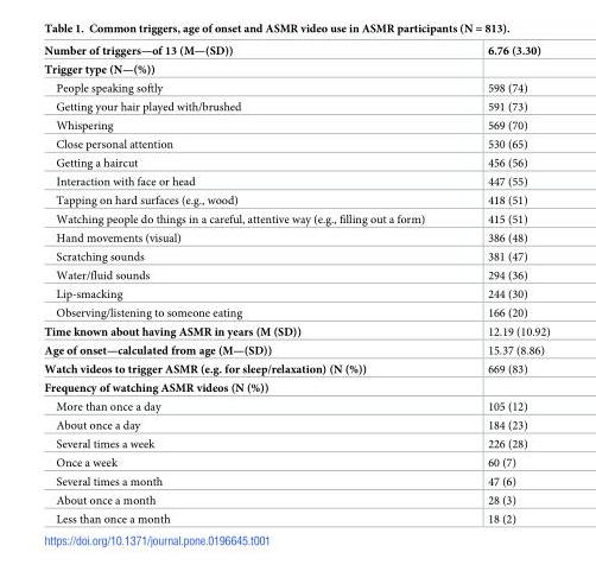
<table><tbody><tr><td>Number of triggers—of 13 (M—(SD))</td><td>6.76 (3.30)</td></tr><tr><td colspan="2">Trigger type (N—(%))</td></tr><tr><td>People speaking softly</td><td>598 (74)</td></tr><tr><td>Getting your hair played with/brushed</td><td>591 (73)</td></tr><tr><td>Whispering</td><td>569 (70)</td></tr><tr><td>Close personal attention</td><td>530 (65)</td></tr><tr><td>Getting a haircut</td><td>456 (56)</td></tr><tr><td>Interaction with face or head</td><td>447 (55)</td></tr><tr><td>Tapping on hard surfaces (e.g., wood)</td><td>418 (51)</td></tr><tr><td>Watching people do things in a careful, attentive way (e.g., filling out a form)</td><td>415 (51)</td></tr><tr><td>Hand movements (visual)</td><td>386 (48)</td></tr><tr><td>Scratching sounds</td><td>381 (47)</td></tr><tr><td>Water/fluid sounds</td><td>294 (36)</td></tr><tr><td>Lip-smacking</td><td>244 (30)</td></tr><tr><td>Observing/listening to someone eating</td><td>166 (20)</td></tr><tr><td>Time known about having ASMR in years (M (SD))</td><td>12.19 (10.92)</td></tr><tr><td>Age of onset—calculated from age (M—(SD))</td><td>15.37 (8.86)</td></tr><tr><td>Watch videos to trigger ASMR (e.g. for sleep/relaxation) (N (%))</td><td>669 (83)</td></tr><tr><td colspan="2">Frequency of watching ASMR videos (N (%))</td></tr><tr><td>More than once a day</td><td>105 (12)</td></tr><tr><td>About once a day</td><td>184 (23)</td></tr><tr><td>Several times a week</td><td>226 (28)</td></tr><tr><td>Once a week</td><td>60 (7)</td></tr><tr><td>Several times a month</td><td>47 (6)</td></tr><tr><td>About once a month</td><td>28 (3)</td></tr><tr><td>Less than once a month</td><td>18 (2)</td></tr></tbody></table>